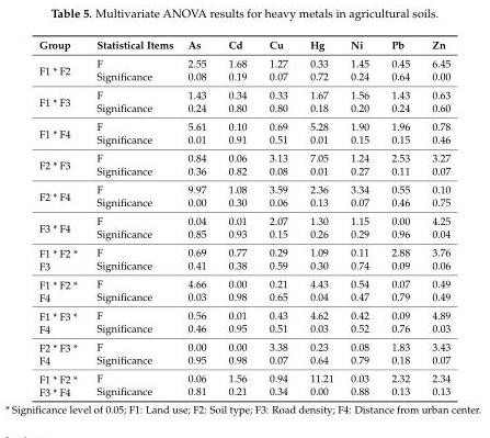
<table><thead><tr><td>Group</td><td>Statistical Items</td><td>As</td><td>Cd</td><td>Cu</td><td>Hg</td><td>Ni</td><td>Pb</td><td>Zn</td></tr></thead><tbody><tr><td rowspan="2">F1 * F2</td><td>F</td><td>2.55</td><td>1.68</td><td>1.27</td><td>0.33</td><td>1.45</td><td>0.45</td><td>6.45</td></tr><tr><td>Significance</td><td>0.08</td><td>0.19</td><td>0.07</td><td>0.72</td><td>0.24</td><td>0.64</td><td>0.00</td></tr><tr><td rowspan="2">F1 * F3</td><td>F</td><td>1.43</td><td>0.34</td><td>0.33</td><td>1.67</td><td>1.56</td><td>1.43</td><td>0.63</td></tr><tr><td>Significance</td><td>0.24</td><td>0.80</td><td>0.80</td><td>0.18</td><td>0.20</td><td>0.24</td><td>0.60</td></tr><tr><td rowspan="2">F1 * F4</td><td>F</td><td>5.61</td><td>0.10</td><td>0.69</td><td>5.28</td><td>1.90</td><td>1.96</td><td>0.78</td></tr><tr><td>Significance</td><td>0.01</td><td>0.91</td><td>0.51</td><td>0.01</td><td>0.15</td><td>0.15</td><td>0.46</td></tr><tr><td rowspan="2">F2 * F3</td><td>F</td><td>0.84</td><td>0.06</td><td>3.13</td><td>7.05</td><td>1.24</td><td>2.53</td><td>3.27</td></tr><tr><td>Significance</td><td>0.36</td><td>0.82</td><td>0.08</td><td>0.01</td><td>0.27</td><td>0.11</td><td>0.07</td></tr><tr><td rowspan="2">F2 * F4</td><td>F</td><td>9.97</td><td>1.08</td><td>3.59</td><td>2.36</td><td>3.34</td><td>0.55</td><td>0.10</td></tr><tr><td>Significance</td><td>0.00</td><td>0.30</td><td>0.06</td><td>0.13</td><td>0.07</td><td>0.46</td><td>0.75</td></tr><tr><td rowspan="2">F3 * F4</td><td>F</td><td>0.04</td><td>0.01</td><td>2.07</td><td>1.30</td><td>1.15</td><td>0.00</td><td>4.25</td></tr><tr><td>Significance</td><td>0.85</td><td>0.93</td><td>0.15</td><td>0.26</td><td>0.29</td><td>0.96</td><td>0.04</td></tr><tr><td rowspan="2">F1 * F2 * F3</td><td>F</td><td>0.69</td><td>0.77</td><td>0.29</td><td>1.09</td><td>0.11</td><td>2.88</td><td>3.76</td></tr><tr><td>Significance</td><td>0.41</td><td>0.38</td><td>0.59</td><td>0.30</td><td>0.74</td><td>0.09</td><td>0.06</td></tr><tr><td rowspan="2">F1 * F2 * F4</td><td>F</td><td>4.66</td><td>0.00</td><td>0.21</td><td>4.43</td><td>0.54</td><td>0.07</td><td>0.49</td></tr><tr><td>Significance</td><td>0.03</td><td>0.98</td><td>0.65</td><td>0.04</td><td>0.47</td><td>0.79</td><td>0.49</td></tr><tr><td rowspan="2">F1 * F3 * F4</td><td>F</td><td>0.56</td><td>0.01</td><td>0.43</td><td>4.62</td><td>0.42</td><td>0.09</td><td>4.89</td></tr><tr><td>Significance</td><td>0.46</td><td>0.95</td><td>0.51</td><td>0.03</td><td>0.52</td><td>0.76</td><td>0.03</td></tr><tr><td rowspan="2">F2 * F3 * F4</td><td>F</td><td>0.00</td><td>0.00</td><td>3.38</td><td>0.23</td><td>0.08</td><td>1.83</td><td>3.43</td></tr><tr><td>Significance</td><td>0.95</td><td>0.98</td><td>0.07</td><td>0.64</td><td>0.79</td><td>0.18</td><td>0.07</td></tr><tr><td rowspan="2">F1 * F2 * F3 * F4</td><td>F</td><td>0.06</td><td>1.56</td><td>0.94</td><td>11.21</td><td>0.03</td><td>2.32</td><td>2.34</td></tr><tr><td>Significance</td><td>0.81</td><td>0.21</td><td>0.34</td><td>0.00</td><td>0.88</td><td>0.13</td><td>0.13</td></tr></tbody></table>